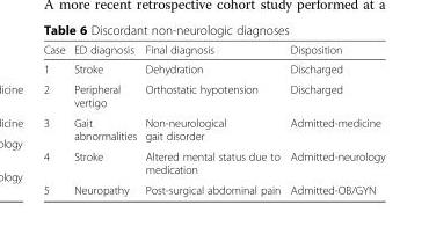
<table><thead><tr><td>Case</td><td>ED diagnosis</td><td>Final diagnosis</td><td>Disposition</td></tr></thead><tbody><tr><td>1</td><td>Stroke</td><td>Dehydration</td><td>Discharged</td></tr><tr><td>2</td><td>Peripheral vertigo</td><td>Orthostatic hypotension</td><td>Discharged</td></tr><tr><td>3</td><td>Gait abnormalities</td><td>Non-neurological gait disorder</td><td>Admitted-medicine</td></tr><tr><td>4</td><td>Stroke</td><td>Altered mental status due to medication</td><td>Admitted-neurology</td></tr><tr><td>5</td><td>Neuropathy</td><td>Post-surgical abdominal pain</td><td>Admitted-OB/GYN</td></tr></tbody></table>